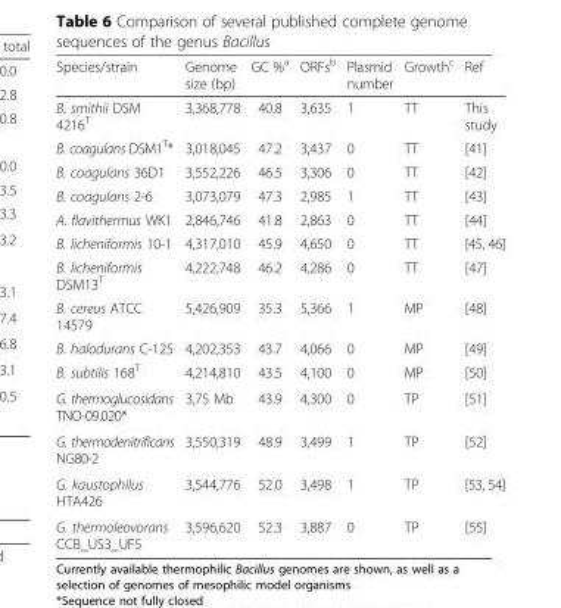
<table><thead><tr><td>Species/strain</td><td>Genome size (bp)</td><td>GC %<sup>a</sup></td><td>ORFs<sup>b</sup></td><td>Plasmid number</td><td>Growth<sup>c</sup></td><td>Ref</td></tr></thead><tbody><tr><td>B. smithii DSM 4216<sup>T</sup></td><td>3,368,778</td><td>40.8</td><td>3,635</td><td>1</td><td>TT</td><td>This study</td></tr><tr><td>B. coagulans DSM1<sup>T</sup>*</td><td>3,018,045</td><td>47.2</td><td>3,437</td><td>0</td><td>TT</td><td>[41]</td></tr><tr><td>B. coagulans 36D1</td><td>3,552,226</td><td>46.5</td><td>3,306</td><td>0</td><td>TT</td><td>[42]</td></tr><tr><td>B. coagulans 2-6</td><td>3,073,079</td><td>47.3</td><td>2,985</td><td>1</td><td>TT</td><td>[43]</td></tr><tr><td>A. flavithermus WK1</td><td>2,846,746</td><td>41.8</td><td>2,863</td><td>0</td><td>TT</td><td>[44]</td></tr><tr><td>B. licheniformis 10-1</td><td>4,317,010</td><td>45.9</td><td>4,650</td><td>0</td><td>TT</td><td>[45, 46]</td></tr><tr><td>B. licheniformis DSM13<sup>T</sup></td><td>4,222,748</td><td>46.2</td><td>4,286</td><td>0</td><td>TT</td><td>[47]</td></tr><tr><td>B. cereus ATCC 14579</td><td>5,426,909</td><td>35.3</td><td>5,366</td><td>1</td><td>MP</td><td>[48]</td></tr><tr><td>B. halodurans C-125</td><td>4,202,353</td><td>43.7</td><td>4,066</td><td>0</td><td>MP</td><td>[49]</td></tr><tr><td>B. subtilis 168<sup>T</sup></td><td>4,214,810</td><td>43.5</td><td>4,100</td><td>0</td><td>MP</td><td>[50]</td></tr><tr><td>G. thermoglucosidans TNO-09.020*</td><td>3,75 Mb</td><td>43.9</td><td>4,300</td><td>0</td><td>TP</td><td>[51]</td></tr><tr><td>G. thermodenitrificans NG80-2</td><td>3,550,319</td><td>48.9</td><td>3,499</td><td>1</td><td>TP</td><td>[52]</td></tr><tr><td>G. kaustophilus HTA426</td><td>3,544,776</td><td>52.0</td><td>3,498</td><td>1</td><td>TP</td><td>[53, 54]</td></tr><tr><td>G. thermoleovorans CCB_US3_UF5</td><td>3,596,620</td><td>52.3</td><td>3,887</td><td>0</td><td>TP</td><td>[55]</td></tr></tbody></table>